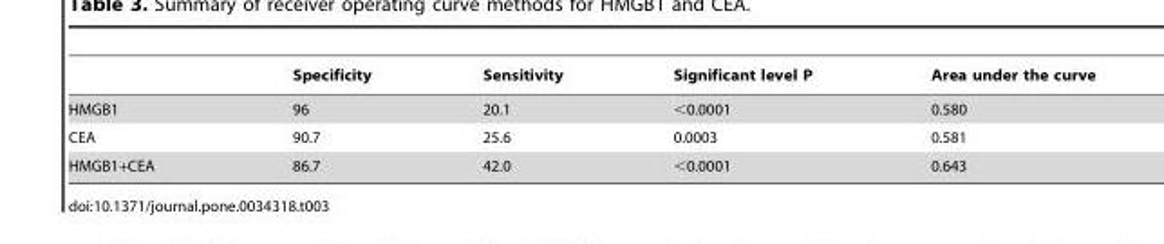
<table><thead><tr><td></td><td>Specificity</td><td>Sensitivity</td><td>Significant level P</td><td>Area under the curve</td></tr></thead><tbody><tr><td>HMGB1</td><td>96</td><td>20.1</td><td>&lt;0.0001</td><td>0.580</td></tr><tr><td>CEA</td><td>90.7</td><td>25.6</td><td>0.0003</td><td>0.581</td></tr><tr><td>HMGB1+CEA</td><td>86.7</td><td>42.0</td><td>&lt;0.0001</td><td>0.643</td></tr></tbody></table>